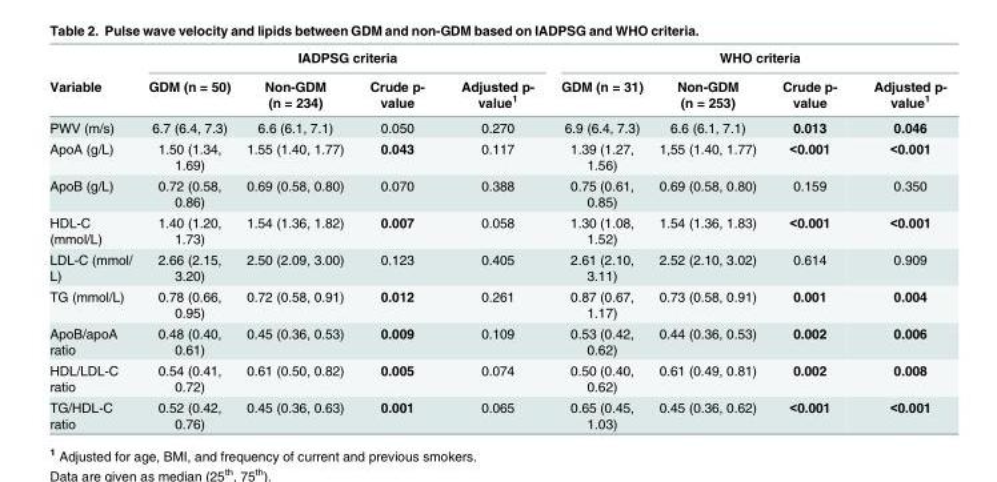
<table><thead><tr><td rowspan="2">Variable</td><td colspan="4">IADPSG criteria</td><td colspan="4">WHO criteria</td></tr><tr><td>GDM (n = 50)</td><td>Non-GDM (n = 234)</td><td>Crude p- value</td><td>Adjusted p- value<sup>1</sup></td><td>GDM (n = 31)</td><td>Non-GDM (n = 253)</td><td>Crude p- value</td><td>Adjusted p- value<sup>1</sup></td></tr></thead><tbody><tr><td>PWV (m/s)</td><td>6.7 (6.4, 7.3)</td><td>6.6 (6.1, 7.1)</td><td>0.050</td><td>0.270</td><td>6.9 (6.4, 7.3)</td><td>6.6 (6.1, 7.1)</td><td>0.013</td><td>0.046</td></tr><tr><td>ApoA (g/L)</td><td>1.50 (1.34, 1.69)</td><td>1.55 (1.40, 1.77)</td><td>0.043</td><td>0.117</td><td>1.39 (1.27, 1.56)</td><td>1,55 (1.40, 1.77)</td><td>&lt;0.001</td><td>&lt;0.001</td></tr><tr><td>ApoB (g/L)</td><td>0.72 (0.58, 0.86)</td><td>0.69 (0.58, 0.80)</td><td>0.070</td><td>0.388</td><td>0.75 (0.61, 0.85)</td><td>0.69 (0.58, 0.80)</td><td>0.159</td><td>0.350</td></tr><tr><td>HDL-C (mmol/L)</td><td>1.40 (1.20, 1.73)</td><td>1.54 (1.36, 1.82)</td><td>0.007</td><td>0.058</td><td>1.30 (1.08, 1.52)</td><td>1.54 (1.36, 1.83)</td><td>&lt;0.001</td><td>&lt;0.001</td></tr><tr><td>LDL-C (mmol/ L)</td><td>2.66 (2.15, 3.20)</td><td>2.50 (2.09, 3.00)</td><td>0.123</td><td>0.405</td><td>2.61 (2.10, 3.11)</td><td>2.52 (2.10, 3.02)</td><td>0.614</td><td>0.909</td></tr><tr><td>TG (mmol/L)</td><td>0.78 (0.66, 0.95)</td><td>0.72 (0.58, 0.91)</td><td>0.012</td><td>0.261</td><td>0.87 (0.67, 1.17)</td><td>0.73 (0.58, 0.91)</td><td>0.001</td><td>0.004</td></tr><tr><td>ApoB/apoA ratio</td><td>0.48 (0.40, 0.61)</td><td>0.45 (0.36, 0.53)</td><td>0.009</td><td>0.109</td><td>0.53 (0.42, 0.62)</td><td>0.44 (0.36, 0.53)</td><td>0.002</td><td>0.006</td></tr><tr><td>HDL/LDL-C ratio</td><td>0.54 (0.41, 0.72)</td><td>0.61 (0.50, 0.82)</td><td>0.005</td><td>0.074</td><td>0.50 (0.40, 0.62)</td><td>0.61 (0.49, 0.81)</td><td>0.002</td><td>0.008</td></tr><tr><td>TG/HDL-C ratio</td><td>0.52 (0.42, 0.76)</td><td>0.45 (0.36, 0.63)</td><td>0.001</td><td>0.065</td><td>0.65 (0.45, 1.03)</td><td>0.45 (0.36, 0.62)</td><td>&lt;0.001</td><td>&lt;0.001</td></tr></tbody></table>